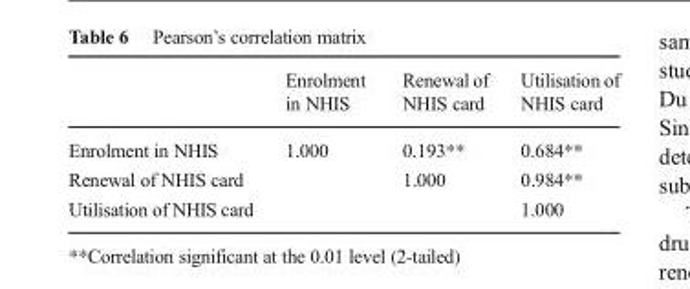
<table><thead><tr><td></td><td>Enrolment in NHIS</td><td>Renewal of NHIS card</td><td>Utilisation of NHIS card</td></tr></thead><tbody><tr><td>Enrolment in NHIS</td><td>1.000</td><td>0.193**</td><td>0.684**</td></tr><tr><td>Renewal of NHIS card</td><td></td><td>1.000</td><td>0.984**</td></tr><tr><td>Utilisation of NHIS card</td><td></td><td></td><td>1.000</td></tr></tbody></table>